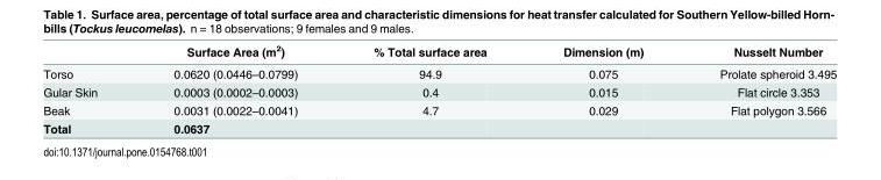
<table><thead><tr><td></td><td>Surface Area (m<sup>2</sup>)</td><td>% Total surface area</td><td>Dimension (m)</td><td>Nusselt Number</td></tr></thead><tbody><tr><td>Torso</td><td>0.0620 (0.0446–0.0799)</td><td>94.9</td><td>0.075</td><td>Prolate spheroid 3.495</td></tr><tr><td>Gular Skin</td><td>0.0003 (0.0002–0.0003)</td><td>0.4</td><td>0.015</td><td>Flat circle 3.353</td></tr><tr><td>Beak</td><td>0.0031 (0.0022–0.0041)</td><td>4.7</td><td>0.029</td><td>Flat polygon 3.566</td></tr><tr><td>Total</td><td>0.0637</td><td></td><td></td><td></td></tr></tbody></table>